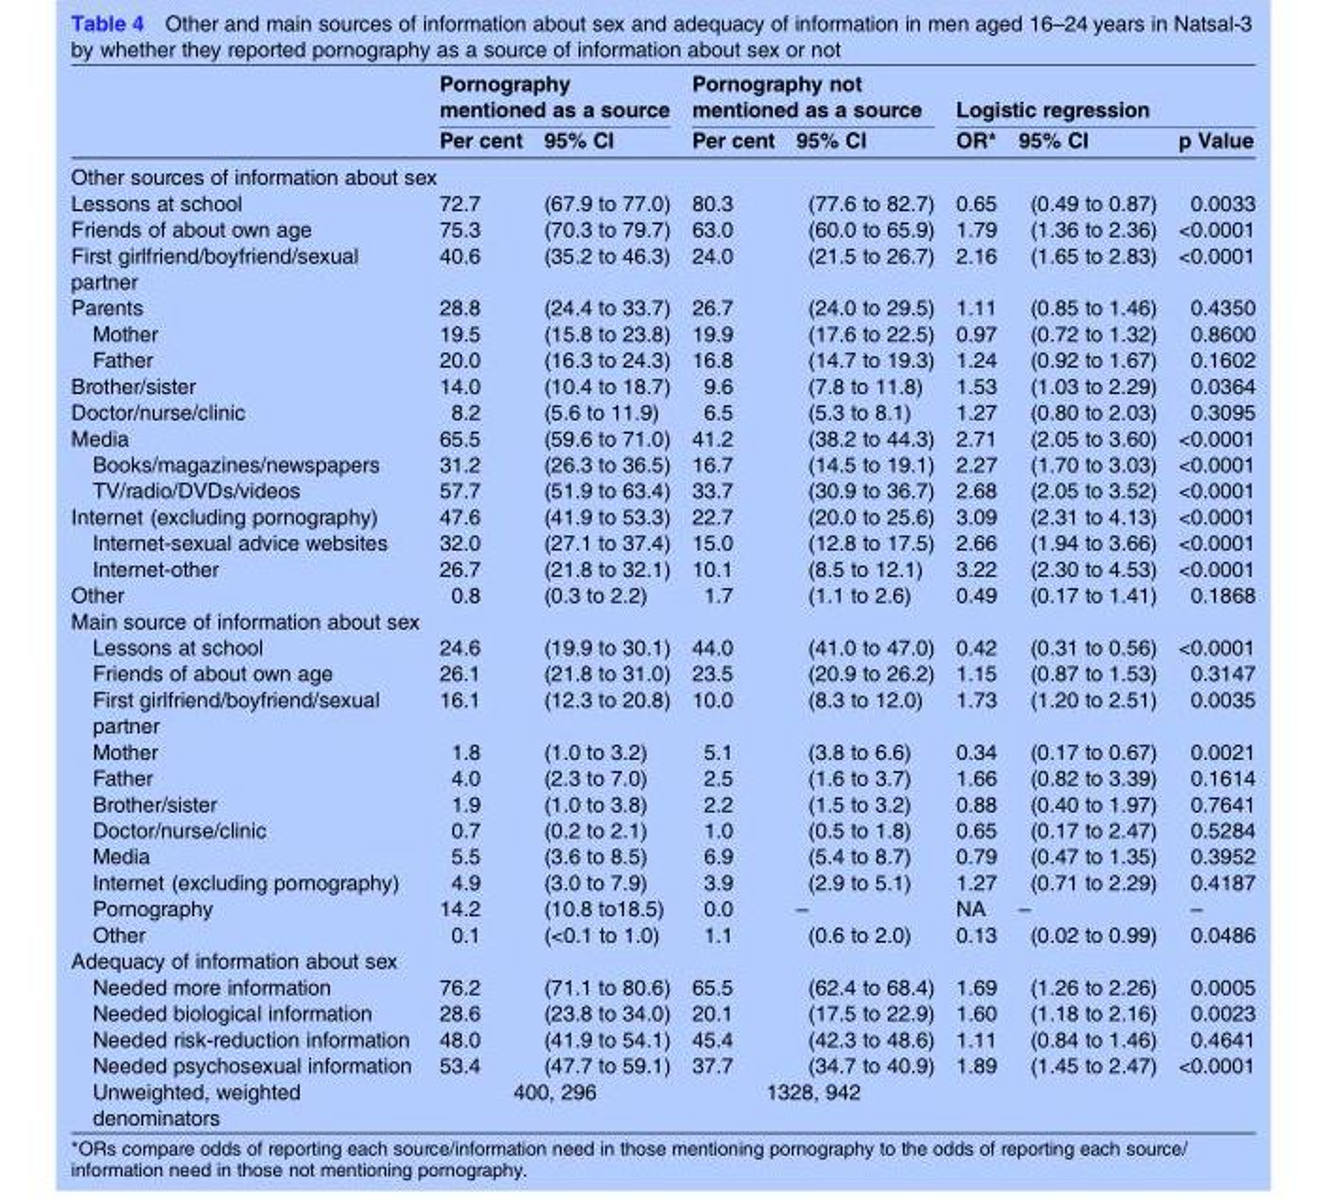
<table><thead><tr><td rowspan="2"></td><td colspan="2">Pornography mentioned as a source</td><td colspan="2">Pornography not mentioned as a source</td><td colspan="3">Logistic regression</td></tr><tr><td>Per cent</td><td>95% CI</td><td>Per cent</td><td>95% CI</td><td>OR*</td><td>95% CI</td><td>p Value</td></tr></thead><tbody><tr><td colspan="8">Other sources of information about sex</td></tr><tr><td>Lessons at school</td><td>72.7</td><td>(67.9 to 77.0)</td><td>80.3</td><td>(77.6 to 82.7)</td><td>0.65</td><td>(0.49 to 0.87)</td><td>0.0033</td></tr><tr><td>Friends of about own age</td><td>75.3</td><td>(70.3 to 79.7)</td><td>63.0</td><td>(60.0 to 65.9)</td><td>1.79</td><td>(1.36 to 2.36)</td><td>&lt;0.0001</td></tr><tr><td>First girlfriend/boyfriend/sexual partner</td><td>40.6</td><td>(35.2 to 46.3)</td><td>24.0</td><td>(21.5 to 26.7)</td><td>2.16</td><td>(1.65 to 2.83)</td><td>&lt;0.0001</td></tr><tr><td>Parents</td><td>28.8</td><td>(24.4 to 33.7)</td><td>26.7</td><td>(24.0 to 29.5)</td><td>1.11</td><td>(0.85 to 1.46)</td><td>0.4350</td></tr><tr><td>Mother</td><td>19.5</td><td>(15.8 to 23.8)</td><td>19.9</td><td>(17.6 to 22.5)</td><td>0.97</td><td>(0.72 to 1.32)</td><td>0.8600</td></tr><tr><td>Father</td><td>20.0</td><td>(16.3 to 24.3)</td><td>16.8</td><td>(14.7 to 19.3)</td><td>1.24</td><td>(0.92 to 1.67)</td><td>0.1602</td></tr><tr><td>Brother/sister</td><td>14.0</td><td>(10.4 to 18.7)</td><td>9.6</td><td>(7.8 to 11.8)</td><td>1.53</td><td>(1.03 to 2.29)</td><td>0.0364</td></tr><tr><td>Doctor/nurse/clinic</td><td>8.2</td><td>(5.6 to 11.9)</td><td>6.5</td><td>(5.3 to 8.1)</td><td>1.27</td><td>(0.80 to 2.03)</td><td>0.3095</td></tr><tr><td>Media</td><td>65.5</td><td>(59.6 to 71.0)</td><td>41.2</td><td>(38.2 to 44.3)</td><td>2.71</td><td>(2.05 to 3.60)</td><td>&lt;0.0001</td></tr><tr><td>Books/magazines/newspapers</td><td>31.2</td><td>(26.3 to 36.5)</td><td>16.7</td><td>(14.5 to 19.1)</td><td>2.27</td><td>(1.70 to 3.03)</td><td>&lt;0.0001</td></tr><tr><td>TV/radio/DVDs/videos</td><td>57.7</td><td>(51.9 to 63.4)</td><td>33.7</td><td>(30.9 to 36.7)</td><td>2.68</td><td>(2.05 to 3.52)</td><td>&lt;0.0001</td></tr><tr><td>Internet (excluding pornography)</td><td>47.6</td><td>(41.9 to 53.3)</td><td>22.7</td><td>(20.0 to 25.6)</td><td>3.09</td><td>(2.31 to 4.13)</td><td>&lt;0.0001</td></tr><tr><td>Internet-sexual advice websites</td><td>32.0</td><td>(27.1 to 37.4)</td><td>15.0</td><td>(12.8 to 17.5)</td><td>2.66</td><td>(1.94 to 3.66)</td><td>&lt;0.0001</td></tr><tr><td>Internet-other</td><td>26.7</td><td>(21.8 to 32.1)</td><td>10.1</td><td>(8.5 to 12.1)</td><td>3.22</td><td>(2.30 to 4.53)</td><td>&lt;0.0001</td></tr><tr><td>Other</td><td>0.8</td><td>(0.3 to 2.2)</td><td>1.7</td><td>(1.1 to 2.6)</td><td>0.49</td><td>(0.17 to 1.41)</td><td>0.1868</td></tr><tr><td colspan="8">Main source of information about sex</td></tr><tr><td>Lessons at school</td><td>24.6</td><td>(19.9 to 30.1)</td><td>44.0</td><td>(41.0 to 47.0)</td><td>0.42</td><td>(0.31 to 0.56)</td><td>&lt;0.0001</td></tr><tr><td>Friends of about own age</td><td>26.1</td><td>(21.8 to 31.0)</td><td>23.5</td><td>(20.9 to 26.2)</td><td>1.15</td><td>(0.87 to 1.53)</td><td>0.3147</td></tr><tr><td>First girlfriend/boyfriend/sexual partner</td><td>16.1</td><td>(12.3 to 20.8)</td><td>10.0</td><td>(8.3 to 12.0)</td><td>1.73</td><td>(1.20 to 2.51)</td><td>0.0035</td></tr><tr><td>Mother</td><td>1.8</td><td>(1.0 to 3.2)</td><td>5.1</td><td>(3.8 to 6.6)</td><td>0.34</td><td>(0.17 to 0.67)</td><td>0.0021</td></tr><tr><td>Father</td><td>4.0</td><td>(2.3 to 7.0)</td><td>2.5</td><td>(1.6 to 3.7)</td><td>1.66</td><td>(0.82 to 3.39)</td><td>0.1614</td></tr><tr><td>Brother/sister</td><td>1.9</td><td>(1.0 to 3.8)</td><td>2.2</td><td>(1.5 to 3.2)</td><td>0.88</td><td>(0.40 to 1.97)</td><td>0.7641</td></tr><tr><td>Doctor/nurse/clinic</td><td>0.7</td><td>(0.2 to 2.1)</td><td>1.0</td><td>(0.5 to 1.8)</td><td>0.65</td><td>(0.17 to 2.47)</td><td>0.5284</td></tr><tr><td>Media</td><td>5.5</td><td>(3.6 to 8.5)</td><td>6.9</td><td>(5.4 to 8.7)</td><td>0.79</td><td>(0.47 to 1.35)</td><td>0.3952</td></tr><tr><td>Internet (excluding pornography)</td><td>4.9</td><td>(3.0 to 7.9)</td><td>3.9</td><td>(2.9 to 5.1)</td><td>1.27</td><td>(0.71 to 2.29)</td><td>0.4187</td></tr><tr><td>Pornography</td><td>14.2</td><td>(10.8 to18.5)</td><td>0.0</td><td>–</td><td>NA</td><td>–</td><td>–</td></tr><tr><td>Other</td><td>0.1</td><td>(&lt;0.1 to 1.0)</td><td>1.1</td><td>(0.6 to 2.0)</td><td>0.13</td><td>(0.02 to 0.99)</td><td>0.0486</td></tr><tr><td colspan="8">Adequacy of information about sex</td></tr><tr><td>Needed more information</td><td>76.2</td><td>(71.1 to 80.6)</td><td>65.5</td><td>(62.4 to 68.4)</td><td>1.69</td><td>(1.26 to 2.26)</td><td>0.0005</td></tr><tr><td>Needed biological information</td><td>28.6</td><td>(23.8 to 34.0)</td><td>20.1</td><td>(17.5 to 22.9)</td><td>1.60</td><td>(1.18 to 2.16)</td><td>0.0023</td></tr><tr><td>Needed risk-reduction information</td><td>48.0</td><td>(41.9 to 54.1)</td><td>45.4</td><td>(42.3 to 48.6)</td><td>1.11</td><td>(0.84 to 1.46)</td><td>0.4641</td></tr><tr><td>Needed psychosexual information</td><td>53.4</td><td>(47.7 to 59.1)</td><td>37.7</td><td>(34.7 to 40.9)</td><td>1.89</td><td>(1.45 to 2.47)</td><td>&lt;0.0001</td></tr><tr><td>Unweighted, weighted denominators</td><td colspan="2">400, 296</td><td colspan="2">1328, 942</td><td></td><td></td><td></td></tr></tbody></table>